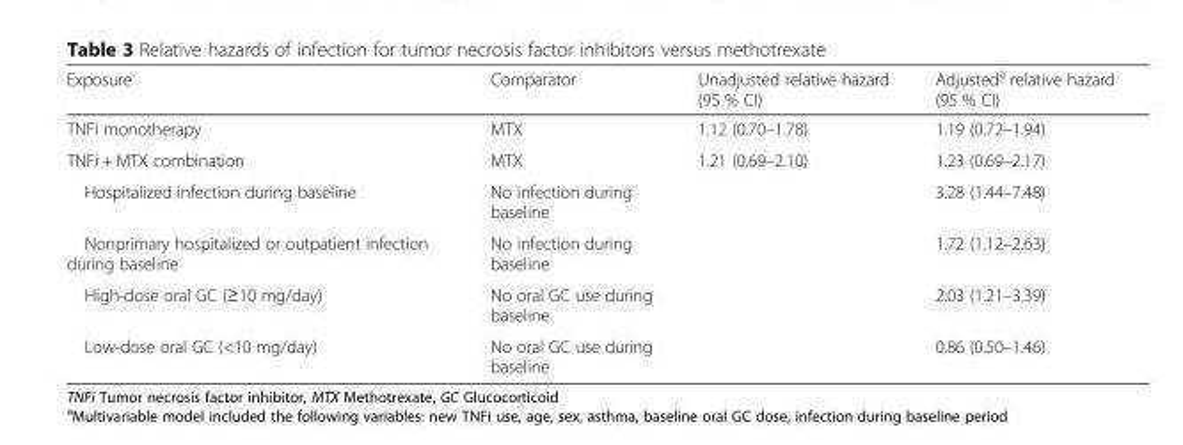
<table><thead><tr><td>Exposure</td><td>Comparator</td><td>Unadjusted relative hazard (95 % CI)</td><td>Adjusted<sup>a</sup> relative hazard (95 % CI)</td></tr></thead><tbody><tr><td>TNFi monotherapy</td><td>MTX</td><td>1.12 (0.70–1.78)</td><td>1.19 (0.72–1.94)</td></tr><tr><td>TNFi + MTX combination</td><td>MTX</td><td>1.21 (0.69–2.10)</td><td>1.23 (0.69–2.17)</td></tr><tr><td>Hospitalized infection during baseline</td><td>No infection during baseline</td><td></td><td>3.28 (1.44–7.48)</td></tr><tr><td>Nonprimary hospitalized or outpatient infection during baseline</td><td>No infection during baseline</td><td></td><td>1.72 (1.12–2.63)</td></tr><tr><td>High-dose oral GC (≥10 mg/day)</td><td>No oral GC use during baseline</td><td></td><td>2.03 (1.21–3.39)</td></tr><tr><td>Low-dose oral GC (&lt;10 mg/day)</td><td>No oral GC use during baseline</td><td></td><td>0.86 (0.50–1.46)</td></tr></tbody></table>